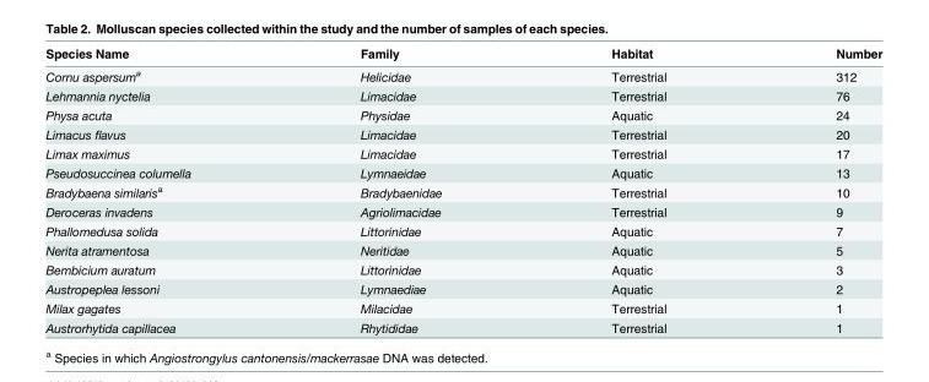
<table><thead><tr><td>Species Name</td><td>Family</td><td>Habitat</td><td>Number</td></tr></thead><tbody><tr><td>Cornu aspersum<sup>a</sup></td><td>Helicidae</td><td>Terrestrial</td><td>312</td></tr><tr><td>Lehmannia nyctelia</td><td>Limacidae</td><td>Terrestrial</td><td>76</td></tr><tr><td>Physa acuta</td><td>Physidae</td><td>Aquatic</td><td>24</td></tr><tr><td>Limacus flavus</td><td>Limacidae</td><td>Terrestrial</td><td>20</td></tr><tr><td>Limax maximus</td><td>Limacidae</td><td>Terrestrial</td><td>17</td></tr><tr><td>Pseudosuccinea columella</td><td>Lymnaeidae</td><td>Aquatic</td><td>13</td></tr><tr><td>Bradybaena similaris<sup>a</sup></td><td>Bradybaenidae</td><td>Terrestrial</td><td>10</td></tr><tr><td>Deroceras invadens</td><td>Agriolimacidae</td><td>Terrestrial</td><td>9</td></tr><tr><td>Phallomedusa solida</td><td>Littorinidae</td><td>Aquatic</td><td>7</td></tr><tr><td>Nerita atramentosa</td><td>Neritidae</td><td>Aquatic</td><td>5</td></tr><tr><td>Bembicium auratum</td><td>Littorinidae</td><td>Aquatic</td><td>3</td></tr><tr><td>Austropeplea lessoni</td><td>Lymnaediae</td><td>Aquatic</td><td>2</td></tr><tr><td>Milax gagates</td><td>Milacidae</td><td>Terrestrial</td><td>1</td></tr><tr><td>Austrorhytida capillacea</td><td>Rhytididae</td><td>Terrestrial</td><td>1</td></tr></tbody></table>